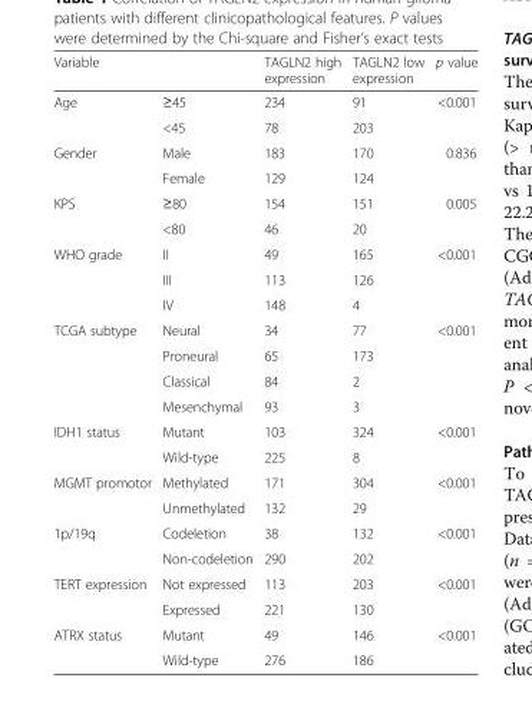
<table><thead><tr><td>Variable</td><td></td><td>TAGLN2 high expression</td><td>TAGLN2 low expression</td><td>p value</td></tr></thead><tbody><tr><td rowspan="2">Age</td><td>≥45</td><td>234</td><td>91</td><td rowspan="2">&lt;0.001</td></tr><tr><td>&lt;45</td><td>78</td><td>203</td></tr><tr><td rowspan="2">Gender</td><td>Male</td><td>183</td><td>170</td><td rowspan="2">0.836</td></tr><tr><td>Female</td><td>129</td><td>124</td></tr><tr><td rowspan="2">KPS</td><td>≥80</td><td>154</td><td>151</td><td rowspan="2">0.005</td></tr><tr><td>&lt;80</td><td>46</td><td>20</td></tr><tr><td rowspan="3">WHO grade</td><td>II</td><td>49</td><td>165</td><td rowspan="3">&lt;0.001</td></tr><tr><td>III</td><td>113</td><td>126</td></tr><tr><td>IV</td><td>148</td><td>4</td></tr><tr><td rowspan="4">TCGA subtype</td><td>Neural</td><td>34</td><td>77</td><td rowspan="4">&lt;0.001</td></tr><tr><td>Proneural</td><td>65</td><td>173</td></tr><tr><td>Classical</td><td>84</td><td>2</td></tr><tr><td>Mesenchymal</td><td>93</td><td>3</td></tr><tr><td rowspan="2">IDH1 status</td><td>Mutant</td><td>103</td><td>324</td><td rowspan="2">&lt;0.001</td></tr><tr><td>Wild-type</td><td>225</td><td>8</td></tr><tr><td rowspan="2">MGMT promotor</td><td>Methylated</td><td>171</td><td>304</td><td rowspan="2">&lt;0.001</td></tr><tr><td>Unmethylated</td><td>132</td><td>29</td></tr><tr><td rowspan="2">1p/19q</td><td>Codeletion</td><td>38</td><td>132</td><td rowspan="2">&lt;0.001</td></tr><tr><td>Non-codeletion</td><td>290</td><td>202</td></tr><tr><td rowspan="2">TERT expression</td><td>Not expressed</td><td>113</td><td>203</td><td rowspan="2">&lt;0.001</td></tr><tr><td>Expressed</td><td>221</td><td>130</td></tr><tr><td rowspan="2">ATRX status</td><td>Mutant</td><td>49</td><td>146</td><td rowspan="2">&lt;0.001</td></tr><tr><td>Wild-type</td><td>276</td><td>186</td></tr></tbody></table>